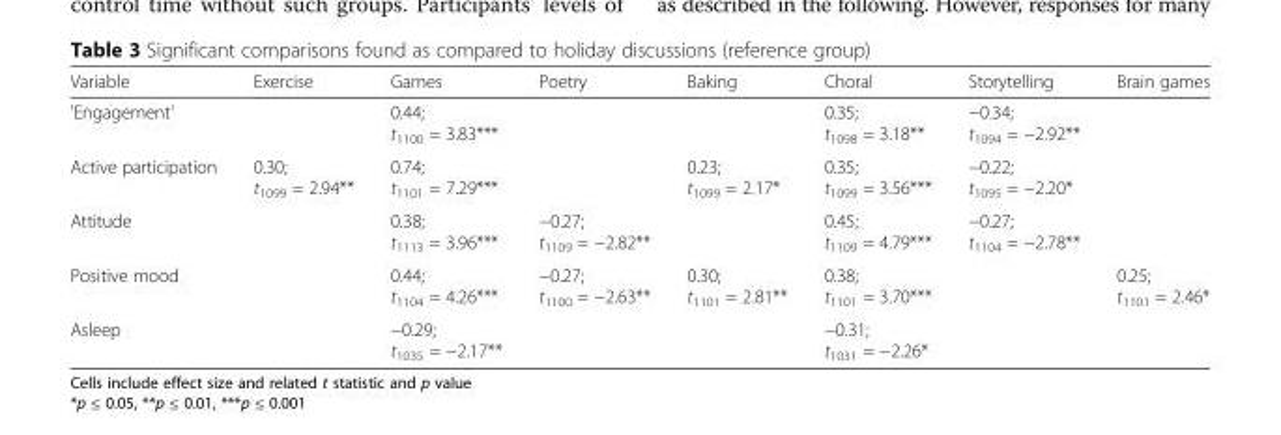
<table><thead><tr><td>Variable</td><td>Exercise</td><td>Games</td><td>Poetry</td><td>Baking</td><td>Choral</td><td>Storytelling</td><td>Brain games</td></tr></thead><tbody><tr><td>&#x27;Engagement&#x27;</td><td></td><td>0.44; t<sub>1100</sub> = 3.83***</td><td></td><td></td><td>0.35; t<sub>1098</sub> = 3.18**</td><td>−0.34; t<sub>1094</sub> = −2.92**</td><td></td></tr><tr><td>Active participation</td><td>0.30; t<sub>1099</sub> = 2.94**</td><td>0.74; t<sub>1101</sub> = 7.29***</td><td></td><td>0.23; t<sub>1099</sub> = 2.17*</td><td>0.35; t<sub>1099</sub> = 3.56***</td><td>−0.22; t<sub>1095</sub> = −2.20*</td><td></td></tr><tr><td>Attitude</td><td></td><td>0.38; t<sub>1113</sub> = 3.96***</td><td>−0.27; t<sub>1109</sub> = −2.82**</td><td></td><td>0.45; t<sub>1109</sub> = 4.79***</td><td>−0.27; t<sub>1104</sub> = −2.78**</td><td></td></tr><tr><td>Positive mood</td><td></td><td>0.44; t<sub>1104</sub> = 4.26***</td><td>−0.27; t<sub>1100</sub> = −2.63**</td><td>0.30; t<sub>1101</sub> = 2.81**</td><td>0.38; t<sub>1101</sub> = 3.70***</td><td></td><td>0.25; t<sub>1101</sub> = 2.46*</td></tr><tr><td>Asleep</td><td></td><td>−0.29; t<sub>1035</sub> = −2.17**</td><td></td><td></td><td>−0.31; t<sub>1031</sub> = −2.26*</td><td></td><td></td></tr></tbody></table>